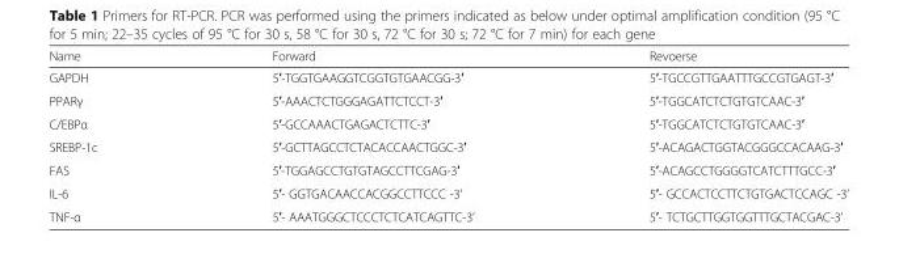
<table><thead><tr><td>Name</td><td>Forward</td><td>Revoerse</td></tr></thead><tbody><tr><td>GAPDH</td><td>5′-TGGTGAAGGTCGGTGTGAACGG-3′</td><td>5′-TGCCGTTGAATTTGCCGTGAGT-3′</td></tr><tr><td>PPARγ</td><td>5′-AAACTCTGGGAGATTCTCCT-3′</td><td>5′-TGGCATCTCTGTGTCAAC-3′</td></tr><tr><td>C/EBPα</td><td>5′-GCCAAACTGAGACTCTTC-3′</td><td>5′-TGGCATCTCTGTGTCAAC-3′</td></tr><tr><td>SREBP-1c</td><td>5′-GCTTAGCCTCTACACCAACTGGC-3′</td><td>5′-ACAGACTGGTACGGGCCACAAG-3′</td></tr><tr><td>FAS</td><td>5′-TGGAGCCTGTGTAGCCTTCGAG-3′</td><td>5′-ACAGCCTGGGGTCATCTTTGCC-3′</td></tr><tr><td>IL-6</td><td>5′- GGTGACAACCACGGCCTTCCC -3’</td><td>5′- GCCACTCCTTCTGTGACTCCAGC -3’</td></tr><tr><td>TNF-α</td><td>5′- AAATGGGCTCCCTCTCATCAGTTC-3’</td><td>5′- TCTGCTTGGTGGTTTGCTACGAC-3’</td></tr></tbody></table>